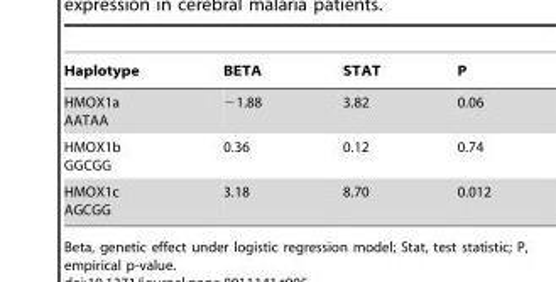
<table><thead><tr><td>Haplotype</td><td>BETA</td><td>STAT</td><td>P</td></tr></thead><tbody><tr><td>HMOX1a AATAA</td><td>−1.88</td><td>3.82</td><td>0.06</td></tr><tr><td>HMOX1b GGCGG</td><td>0.36</td><td>0.12</td><td>0.74</td></tr><tr><td>HMOX1c AGCGG</td><td>3.18</td><td>8.70</td><td>0.012</td></tr></tbody></table>